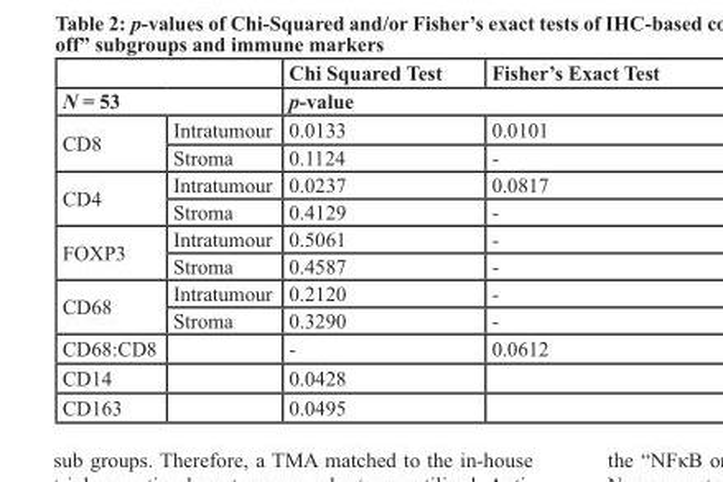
<table><thead><tr><td></td><td></td><td>Chi Squared Test</td><td>Fisher’s Exact Test</td></tr><tr><td colspan="2">N = 53</td><td colspan="2">p-value</td></tr></thead><tbody><tr><td rowspan="2">CD8</td><td>Intratumour</td><td>0.0133</td><td>0.0101</td></tr><tr><td>Stroma</td><td>0.1124</td><td>-</td></tr><tr><td rowspan="2">CD4</td><td>Intratumour</td><td>0.0237</td><td>0.0817</td></tr><tr><td>Stroma</td><td>0.4129</td><td>-</td></tr><tr><td rowspan="2">FOXP3</td><td>Intratumour</td><td>0.5061</td><td>-</td></tr><tr><td>Stroma</td><td>0.4587</td><td>-</td></tr><tr><td rowspan="2">CD68</td><td>Intratumour</td><td>0.2120</td><td>-</td></tr><tr><td>Stroma</td><td>0.3290</td><td>-</td></tr><tr><td>CD68:CD8</td><td></td><td>-</td><td>0.0612</td></tr><tr><td>CD14</td><td></td><td>0.0428</td><td></td></tr><tr><td>CD163</td><td></td><td>0.0495</td><td></td></tr></tbody></table>